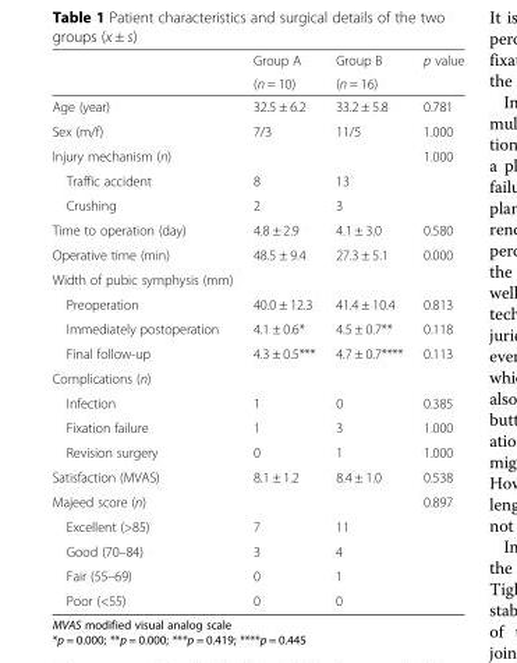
<table><thead><tr><td rowspan="2"></td><td rowspan="2">Group A (n = 10)</td><td rowspan="2">Group B (n = 16)</td><td rowspan="2">p value</td></tr><tr></tr></thead><tbody><tr><td>Age (year)</td><td>32.5 ± 6.2</td><td>33.2 ± 5.8</td><td>0.781</td></tr><tr><td>Sex (m/f)</td><td>7/3</td><td>11/5</td><td>1.000</td></tr><tr><td>Injury mechanism (n)</td><td></td><td></td><td>1.000</td></tr><tr><td>Traffic accident</td><td>8</td><td>13</td><td></td></tr><tr><td>Crushing</td><td>2</td><td>3</td><td></td></tr><tr><td>Time to operation (day)</td><td>4.8 ± 2.9</td><td>4.1 ± 3.0</td><td>0.580</td></tr><tr><td>Operative time (min)</td><td>48.5 ± 9.4</td><td>27.3 ± 5.1</td><td>0.000</td></tr><tr><td colspan="4">Width of pubic symphysis (mm)</td></tr><tr><td>Preoperation</td><td>40.0 ± 12.3</td><td>41.4 ± 10.4</td><td>0.813</td></tr><tr><td>Immediately postoperation</td><td>4.1 ± 0.6*</td><td>4.5 ± 0.7**</td><td>0.118</td></tr><tr><td>Final follow-up</td><td>4.3 ± 0.5***</td><td>4.7 ± 0.7****</td><td>0.113</td></tr><tr><td colspan="4">Complications (n)</td></tr><tr><td>Infection</td><td>1</td><td>0</td><td>0.385</td></tr><tr><td>Fixation failure</td><td>1</td><td>3</td><td>1.000</td></tr><tr><td>Revision surgery</td><td>0</td><td>1</td><td>1.000</td></tr><tr><td>Satisfaction (MVAS)</td><td>8.1 ± 1.2</td><td>8.4 ± 1.0</td><td>0.538</td></tr><tr><td>Majeed score (n)</td><td></td><td></td><td>0.897</td></tr><tr><td>Excellent (&gt;85)</td><td>7</td><td>11</td><td></td></tr><tr><td>Good (70–84)</td><td>3</td><td>4</td><td></td></tr><tr><td>Fair (55–69)</td><td>0</td><td>1</td><td></td></tr><tr><td>Poor (&lt;55)</td><td>0</td><td>0</td><td></td></tr></tbody></table>